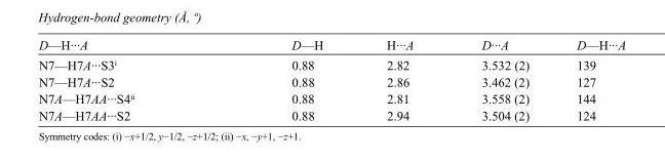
<table><tbody><tr><td>D—H···A</td><td>D—H</td><td>H···A</td><td>D···A</td><td>D—H···A</td></tr><tr><td>N7—H7A···S3<sup>i</sup></td><td>0.88</td><td>2.82</td><td>3.532 (2)</td><td>139</td></tr><tr><td>N7—H7A···S2</td><td>0.88</td><td>2.86</td><td>3.462 (2)</td><td>127</td></tr><tr><td>N7A—H7AA···S4<sup>ii</sup></td><td>0.88</td><td>2.81</td><td>3.558 (2)</td><td>144</td></tr><tr><td>N7A—H7AA···S2</td><td>0.88</td><td>2.94</td><td>3.504 (2)</td><td>124</td></tr></tbody></table>